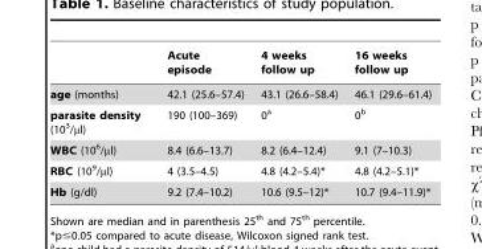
<table><thead><tr><td></td><td>Acute episode</td><td>4 weeks follow up</td><td>16 weeks follow up</td></tr></thead><tbody><tr><td>age (months)</td><td>42.1 (25.6–57.4)</td><td>43.1 (26.6–58.4)</td><td>46.1 (29.6–61.4)</td></tr><tr><td>parasite density (10<sup>3</sup>/µl)</td><td>190 (100–369)</td><td>0<sup>a</sup></td><td>0<sup>b</sup></td></tr><tr><td>WBC (10<sup>6</sup>/µl)</td><td>8.4 (6.6–13.7)</td><td>8.2 (6.4–12.4)</td><td>9.1 (7–10.3)</td></tr><tr><td>RBC (10<sup>9</sup>/µl)</td><td>4 (3.5–4.5)</td><td>4.8 (4.2–5.4)*</td><td>4.8 (4.2–5.1)*</td></tr><tr><td>Hb (g/dl)</td><td>9.2 (7.4–10.2)</td><td>10.6 (9.5–12)*</td><td>10.7 (9.4–11.9)*</td></tr></tbody></table>